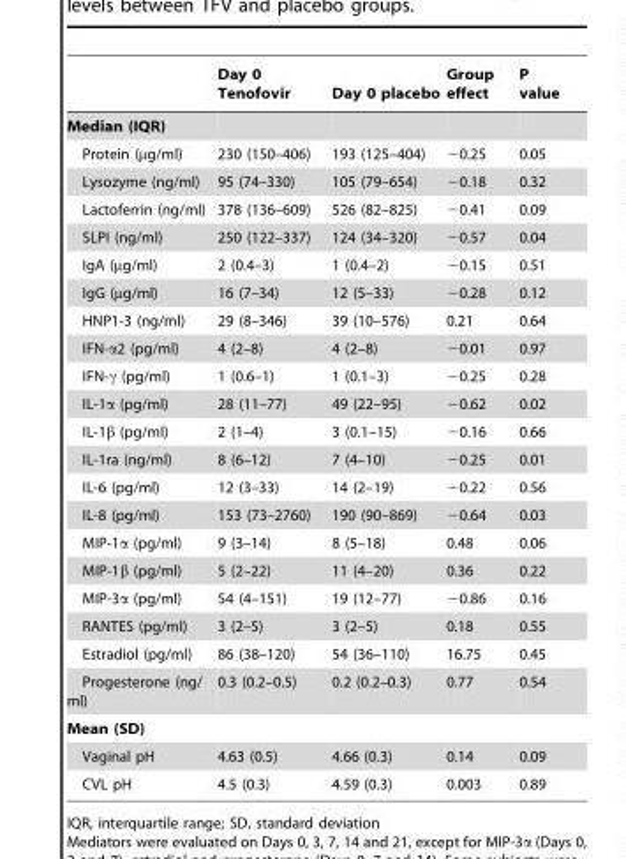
<table><thead><tr><td></td><td>Day 0 Tenofovir</td><td>Day 0 placebo</td><td>Group effect</td><td>P value</td></tr></thead><tbody><tr><td colspan="5">Median (IQR)</td></tr><tr><td>Protein (µg/ml)</td><td>230 (150–406)</td><td>193 (125–404)</td><td>−0.25</td><td>0.05</td></tr><tr><td>Lysozyme (ng/ml)</td><td>95 (74–330)</td><td>105 (79–654)</td><td>−0.18</td><td>0.32</td></tr><tr><td>Lactoferrin (ng/ml)</td><td>378 (136–609)</td><td>526 (82–825)</td><td>−0.41</td><td>0.09</td></tr><tr><td>SLPI (ng/ml)</td><td>250 (122–337)</td><td>124 (34–320)</td><td>−0.57</td><td>0.04</td></tr><tr><td>IgA (µg/ml)</td><td>2 (0.4–3)</td><td>1 (0.4–2)</td><td>−0.15</td><td>0.51</td></tr><tr><td>IgG (µg/ml)</td><td>16 (7–34)</td><td>12 (5–33)</td><td>−0.28</td><td>0.12</td></tr><tr><td>HNP1-3 (ng/ml)</td><td>29 (8–346)</td><td>39 (10–576)</td><td>0.21</td><td>0.64</td></tr><tr><td>IFN-α2 (pg/ml)</td><td>4 (2–8)</td><td>4 (2–8)</td><td>−0.01</td><td>0.97</td></tr><tr><td>IFN-γ (pg/ml)</td><td>1 (0.6–1)</td><td>1 (0.1–3)</td><td>−0.25</td><td>0.28</td></tr><tr><td>IL-1α (pg/ml)</td><td>28 (11–77)</td><td>49 (22–95)</td><td>−0.62</td><td>0.02</td></tr><tr><td>IL-1β (pg/ml)</td><td>2 (1–4)</td><td>3 (0.1–15)</td><td>−0.16</td><td>0.66</td></tr><tr><td>IL-1ra (ng/ml)</td><td>8 (6–12)</td><td>7 (4–10)</td><td>−0.25</td><td>0.01</td></tr><tr><td>IL-6 (pg/ml)</td><td>12 (3–33)</td><td>14 (2–19)</td><td>−0.22</td><td>0.56</td></tr><tr><td>IL-8 (pg/ml)</td><td>153 (73–2760)</td><td>190 (90–869)</td><td>−0.64</td><td>0.03</td></tr><tr><td>MIP-1α (pg/ml)</td><td>9 (3–14)</td><td>8 (5–18)</td><td>0.48</td><td>0.06</td></tr><tr><td>MIP-1β (pg/ml)</td><td>5 (2–22)</td><td>11 (4–20)</td><td>0.36</td><td>0.22</td></tr><tr><td>MIP-3α (pg/ml)</td><td>54 (4–151)</td><td>19 (12–77)</td><td>−0.86</td><td>0.16</td></tr><tr><td>RANTES (pg/ml)</td><td>3 (2–5)</td><td>3 (2–5)</td><td>0.18</td><td>0.55</td></tr><tr><td>Estradiol (pg/ml)</td><td>86 (38–120)</td><td>54 (36–110)</td><td>16.75</td><td>0.45</td></tr><tr><td>Progesterone (ng/ ml)</td><td>0.3 (0.2–0.5)</td><td>0.2 (0.2–0.3)</td><td>0.77</td><td>0.54</td></tr><tr><td colspan="5">Mean (SD)</td></tr><tr><td>Vaginal pH</td><td>4.63 (0.5)</td><td>4.66 (0.3)</td><td>0.14</td><td>0.09</td></tr><tr><td>CVL pH</td><td>4.5 (0.3)</td><td>4.59 (0.3)</td><td>0.003</td><td>0.89</td></tr></tbody></table>